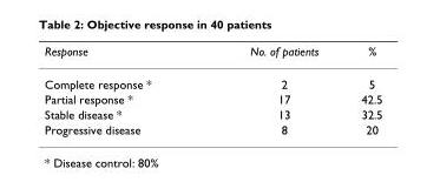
<table><thead><tr><td>Response</td><td>No. of patients</td><td>%</td></tr></thead><tbody><tr><td>Complete response *</td><td>2</td><td>5</td></tr><tr><td>Partial response *</td><td>17</td><td>42.5</td></tr><tr><td>Stable disease *</td><td>13</td><td>32.5</td></tr><tr><td>Progressive disease</td><td>8</td><td>20</td></tr></tbody></table>